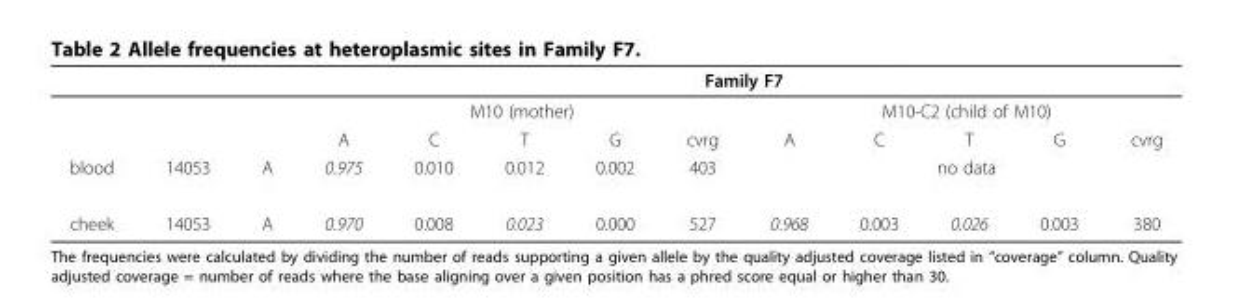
<table><thead><tr><td rowspan="3"></td><td rowspan="3"></td><td rowspan="3"></td><td colspan="10">Family F7</td></tr><tr><td colspan="5">M10 (mother)</td><td colspan="5">M10-C2 (child of M10)</td></tr><tr><td>A</td><td>C</td><td>T</td><td>G</td><td>cvrg</td><td>A</td><td>C</td><td>T</td><td>G</td><td>cvrg</td></tr></thead><tbody><tr><td>blood</td><td>14053</td><td>A</td><td>0.975</td><td>0.010</td><td>0.012</td><td>0.002</td><td>403</td><td colspan="5">no data</td></tr><tr><td>cheek</td><td>14053</td><td>A</td><td>0.970</td><td>0.008</td><td>0.023</td><td>0.000</td><td>527</td><td>0.968</td><td>0.003</td><td>0.026</td><td>0.003</td><td>380</td></tr></tbody></table>